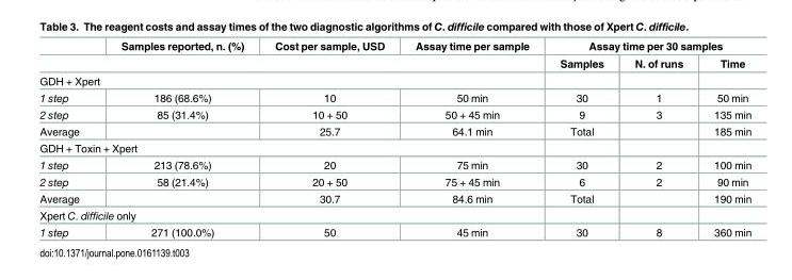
<table><thead><tr><td rowspan="2"></td><td rowspan="2">Samples reported, n. (%)</td><td rowspan="2">Cost per sample, USD</td><td rowspan="2">Assay time per sample</td><td colspan="3">Assay time per 30 samples</td></tr><tr><td>Samples</td><td>N. of runs</td><td>Time</td></tr></thead><tbody><tr><td colspan="7">GDH + Xpert</td></tr><tr><td>1 step</td><td>186 (68.6%)</td><td>10</td><td>50 min</td><td>30</td><td>1</td><td>50 min</td></tr><tr><td>2 step</td><td>85 (31.4%)</td><td>10 + 50</td><td>50 + 45 min</td><td>9</td><td>3</td><td>135 min</td></tr><tr><td>Average</td><td></td><td>25.7</td><td>64.1 min</td><td>Total</td><td></td><td>185 min</td></tr><tr><td colspan="7">GDH + Toxin + Xpert</td></tr><tr><td>1 step</td><td>213 (78.6%)</td><td>20</td><td>75 min</td><td>30</td><td>2</td><td>100 min</td></tr><tr><td>2 step</td><td>58 (21.4%)</td><td>20 + 50</td><td>75 + 45 min</td><td>6</td><td>2</td><td>90 min</td></tr><tr><td>Average</td><td></td><td>30.7</td><td>84.6 min</td><td>Total</td><td></td><td>190 min</td></tr><tr><td colspan="7">Xpert C. difficile only</td></tr><tr><td>1 step</td><td>271 (100.0%)</td><td>50</td><td>45 min</td><td>30</td><td>8</td><td>360 min</td></tr></tbody></table>